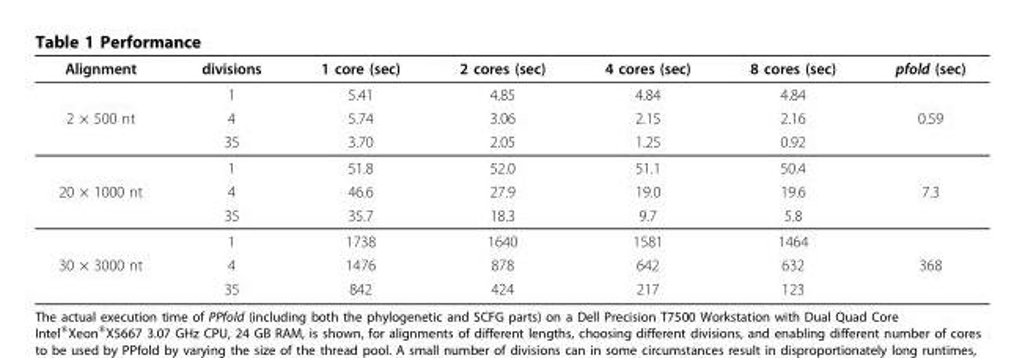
<table><thead><tr><td>Alignment</td><td>divisions</td><td>1 core (sec)</td><td>2 cores (sec)</td><td>4 cores (sec)</td><td>8 cores (sec)</td><td>pfold (sec)</td></tr></thead><tbody><tr><td></td><td>1</td><td>5.41</td><td>4.85</td><td>4.84</td><td>4.84</td><td></td></tr><tr><td rowspan="3">2 × 500 nt</td><td>4</td><td>5.74</td><td>3.06</td><td>2.15</td><td>2.16</td><td>0.59</td></tr><tr><td>35</td><td>3.70</td><td>2.05</td><td>1.25</td><td>0.92</td><td></td></tr><tr><td>1</td><td>51.8</td><td>52.0</td><td>51.1</td><td>50.4</td><td></td></tr><tr><td rowspan="3">20 × 1000 nt</td><td>4</td><td>46.6</td><td>27.9</td><td>19.0</td><td>19.6</td><td>7.3</td></tr><tr><td>35</td><td>35.7</td><td>18.3</td><td>9.7</td><td>5.8</td><td></td></tr><tr><td>1</td><td>1738</td><td>1640</td><td>1581</td><td>1464</td><td></td></tr><tr><td rowspan="2">30 × 3000 nt</td><td>4</td><td>1476</td><td>878</td><td>642</td><td>632</td><td>368</td></tr><tr><td>35</td><td>842</td><td>424</td><td>217</td><td>123</td><td></td></tr></tbody></table>